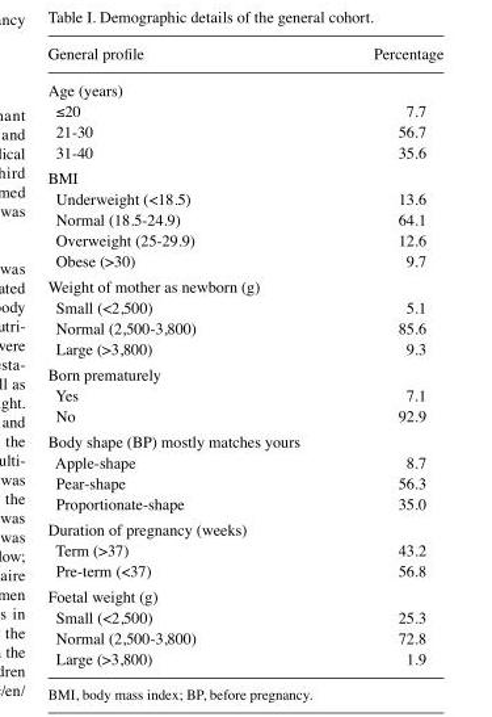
<table><thead><tr><td>General profile</td><td>Percentage</td></tr></thead><tbody><tr><td colspan="2">Age (years)</td></tr><tr><td>≤20</td><td>7.7</td></tr><tr><td>21-30</td><td>56.7</td></tr><tr><td>31-40</td><td>35.6</td></tr><tr><td colspan="2">BMI</td></tr><tr><td>Underweight (&lt;18.5)</td><td>13.6</td></tr><tr><td>Normal (18.5-24.9)</td><td>64.1</td></tr><tr><td>Overweight (25-29.9)</td><td>12.6</td></tr><tr><td>Obese (&gt;30)</td><td>9.7</td></tr><tr><td colspan="2">Weight of mother as newborn (g)</td></tr><tr><td>Small (&lt;2,500)</td><td>5.1</td></tr><tr><td>Normal (2,500-3,800)</td><td>85.6</td></tr><tr><td>Large (&gt;3,800)</td><td>9.3</td></tr><tr><td colspan="2">Born prematurely</td></tr><tr><td>Yes</td><td>7.1</td></tr><tr><td>No</td><td>92.9</td></tr><tr><td colspan="2">Body shape (BP) mostly matches yours</td></tr><tr><td>Apple-shape</td><td>8.7</td></tr><tr><td>Pear-shape</td><td>56.3</td></tr><tr><td>Proportionate-shape</td><td>35.0</td></tr><tr><td colspan="2">Duration of pregnancy (weeks)</td></tr><tr><td>Term (&gt;37)</td><td>43.2</td></tr><tr><td>Pre-term (&lt;37)</td><td>56.8</td></tr><tr><td colspan="2">Foetal weight (g)</td></tr><tr><td>Small (&lt;2,500)</td><td>25.3</td></tr><tr><td>Normal (2,500-3,800)</td><td>72.8</td></tr><tr><td>Large (&gt;3,800)</td><td>1.9</td></tr></tbody></table>